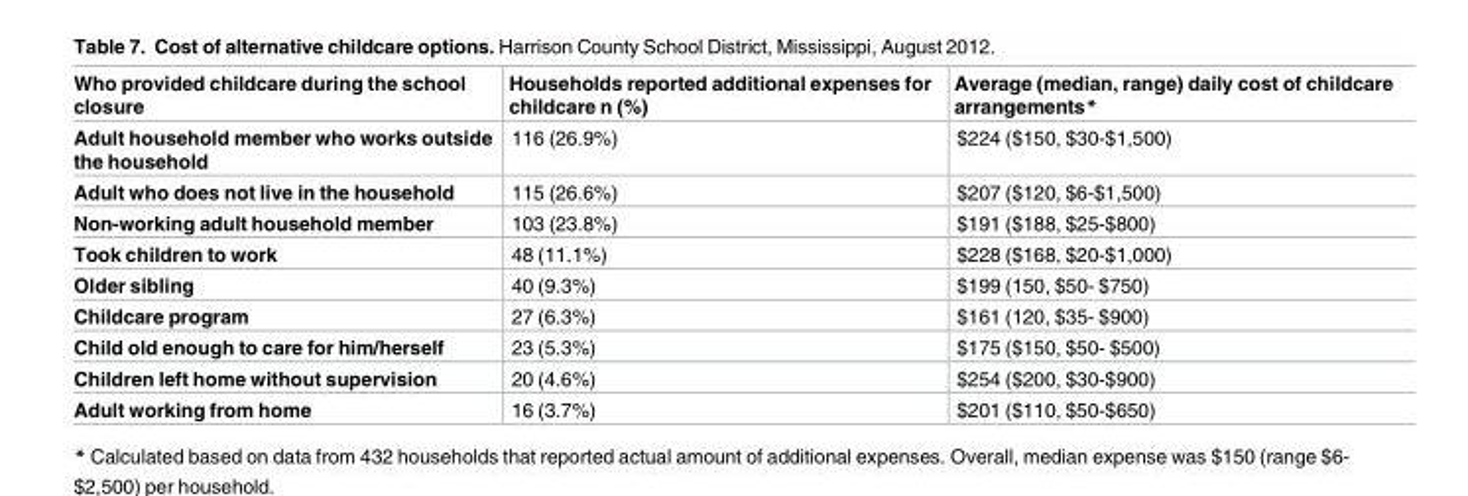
<table><thead><tr><td>Who provided childcare during the school closure</td><td>Households reported additional expenses for childcare n (%)</td><td>Average (median, range) daily cost of childcare arrangements*</td></tr></thead><tbody><tr><td>Adult household member who works outside the household</td><td>116 (26.9%)</td><td>$224 ($150, $30-$1,500)</td></tr><tr><td>Adult who does not live in the household</td><td>115 (26.6%)</td><td>$207 ($120, $6-$1,500)</td></tr><tr><td>Non-working adult household member</td><td>103 (23.8%)</td><td>$191 ($188, $25-$800)</td></tr><tr><td>Took children to work</td><td>48 (11.1%)</td><td>$228 ($168, $20-$1,000)</td></tr><tr><td>Older sibling</td><td>40 (9.3%)</td><td>$199 (150, $50- $750)</td></tr><tr><td>Childcare program</td><td>27 (6.3%)</td><td>$161 (120, $35- $900)</td></tr><tr><td>Child old enough to care for him/herself</td><td>23 (5.3%)</td><td>$175 ($150, $50- $500)</td></tr><tr><td>Children left home without supervision</td><td>20 (4.6%)</td><td>$254 ($200, $30-$900)</td></tr><tr><td>Adult working from home</td><td>16 (3.7%)</td><td>$201 ($110, $50-$650)</td></tr></tbody></table>